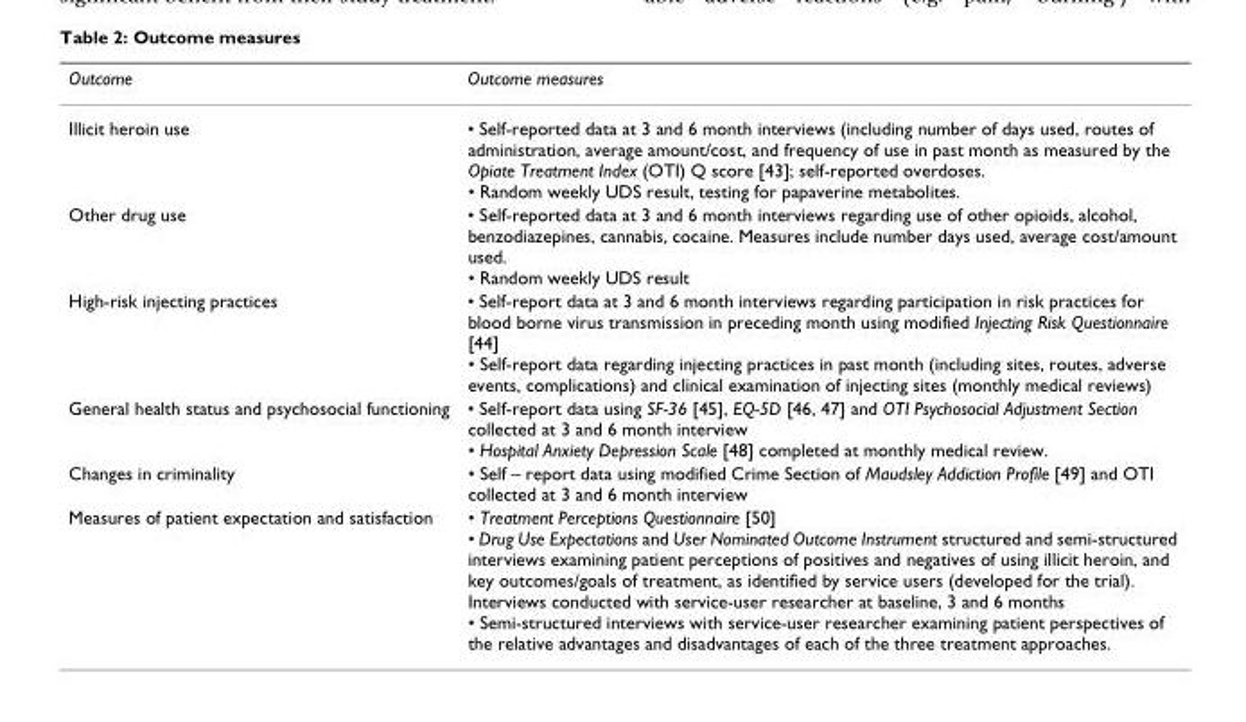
<table><thead><tr><td>Outcome</td><td>Outcome measures</td></tr></thead><tbody><tr><td>Illicit heroin use</td><td>• Self-reported data at 3 and 6 month interviews (including number of days used, routes of administration, average amount/cost, and frequency of use in past month as measured by the Opiate Treatment Index (OTI) Q score [43]; self-reported overdoses. • Random weekly UDS result, testing for papaverine metabolites.</td></tr><tr><td>Other drug use</td><td>• Self-reported data at 3 and 6 month interviews regarding use of other opioids, alcohol, benzodiazepines, cannabis, cocaine. Measures include number days used, average cost/amount used. • Random weekly UDS result</td></tr><tr><td>High-risk injecting practices</td><td>• Self-report data at 3 and 6 month interviews regarding participation in risk practices for blood borne virus transmission in preceding month using modified Injecting Risk Questionnaire [44] • Self-report data regarding injecting practices in past month (including sites, routes, adverse events, complications) and clinical examination of injecting sites (monthly medical reviews)</td></tr><tr><td>General health status and psychosocial functioning</td><td>• Self-report data using SF-36 [45], EQ-5D [46, 47] and OTI Psychosocial Adjustment Section collected at 3 and 6 month interview • Hospital Anxiety Depression Scale [48] completed at monthly medical review.</td></tr><tr><td>Changes in criminality</td><td>• Self – report data using modified Crime Section of Maudsley Addiction Profile [49] and OTI collected at 3 and 6 month interview</td></tr><tr><td>Measures of patient expectation and satisfaction</td><td>• Treatment Perceptions Questionnaire [50] • Drug Use Expectations and User Nominated Outcome Instrument structured and semi-structured interviews examining patient perceptions of positives and negatives of using illicit heroin, and key outcomes/goals of treatment, as identified by service users (developed for the trial). Interviews conducted with service-user researcher at baseline, 3 and 6 months • Semi-structured interviews with service-user researcher examining patient perspectives of the relative advantages and disadvantages of each of the three treatment approaches.</td></tr></tbody></table>